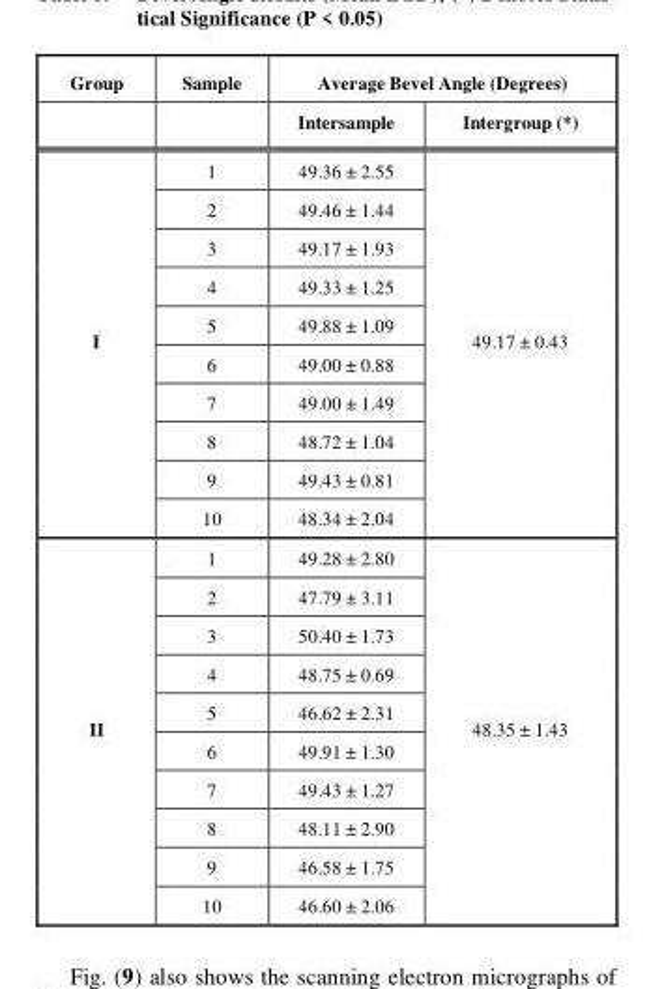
<table><thead><tr><td rowspan="2">Group</td><td rowspan="2">Sample</td><td colspan="2">Average Bevel Angle (Degrees)</td></tr><tr><td>Intersample</td><td>Intergroup (*)</td></tr></thead><tbody><tr><td rowspan="10">I</td><td>1</td><td>49.36 ± 2.55</td><td rowspan="10">49.17 ± 0.43</td></tr><tr><td>2</td><td>49.46 ± 1.44</td></tr><tr><td>3</td><td>49.17 ± 1.93</td></tr><tr><td>4</td><td>49.33 ± 1.25</td></tr><tr><td>5</td><td>49.88 ± 1.09</td></tr><tr><td>6</td><td>49.00 ± 0.88</td></tr><tr><td>7</td><td>49.00 ± 1.49</td></tr><tr><td>8</td><td>48.72 ± 1.04</td></tr><tr><td>9</td><td>49.43 ± 0.81</td></tr><tr><td>10</td><td>48.34 ± 2.04</td></tr><tr><td rowspan="10">II</td><td>1</td><td>49.28 ± 2.80</td><td rowspan="10">48.35 ± 1.43</td></tr><tr><td>2</td><td>47.79 ± 3.11</td></tr><tr><td>3</td><td>50.40 ± 1.73</td></tr><tr><td>4</td><td>48.75 ± 0.69</td></tr><tr><td>5</td><td>46.62 ± 2.31</td></tr><tr><td>6</td><td>49.91 ± 1.30</td></tr><tr><td>7</td><td>49.43 ± 1.27</td></tr><tr><td>8</td><td>48.11 ± 2.90</td></tr><tr><td>9</td><td>46.58 ± 1.75</td></tr><tr><td>10</td><td>46.60 ± 2.06</td></tr></tbody></table>